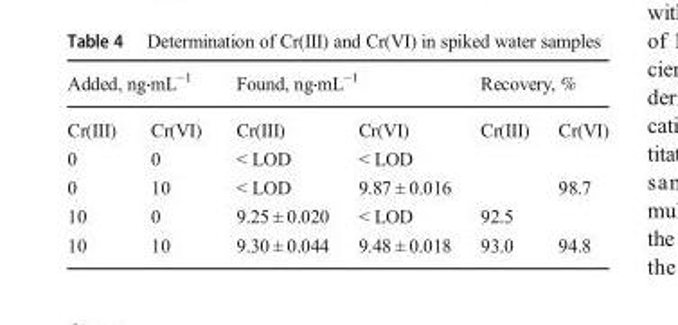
<table><thead><tr><td colspan="2">Added, ng⋅mL<sup>−1</sup></td><td colspan="2">Found, ng⋅mL<sup>−1</sup></td><td colspan="2">Recovery, %</td></tr><tr><td>Cr(III)</td><td>Cr(VI)</td><td>Cr(III)</td><td>Cr(VI)</td><td>Cr(III)</td><td>Cr(VI)</td></tr></thead><tbody><tr><td>0</td><td>0</td><td>˂ LOD</td><td>˂ LOD</td><td></td><td></td></tr><tr><td>0</td><td>10</td><td>˂ LOD</td><td>9.87 ± 0.016</td><td></td><td>98.7</td></tr><tr><td>10</td><td>0</td><td>9.25 ± 0.020</td><td>˂ LOD</td><td>92.5</td><td></td></tr><tr><td>10</td><td>10</td><td>9.30 ± 0.044</td><td>9.48 ± 0.018</td><td>93.0</td><td>94.8</td></tr></tbody></table>